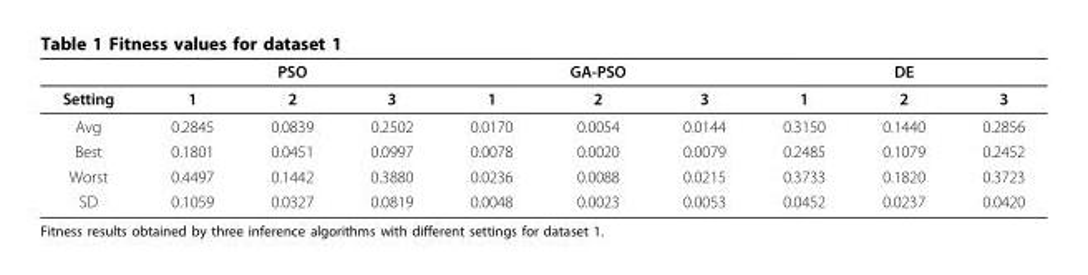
<table><thead><tr><td></td><td></td><td>PSO</td><td></td><td></td><td>GA-PSO</td><td></td><td></td><td>DE</td><td></td></tr></thead><tbody><tr><td>Setting</td><td>1</td><td>2</td><td>3</td><td>1</td><td>2</td><td>3</td><td>1</td><td>2</td><td>3</td></tr><tr><td>Avg</td><td>0.2845</td><td>0.0839</td><td>0.2502</td><td>0.0170</td><td>0.0054</td><td>0.0144</td><td>0.3150</td><td>0.1440</td><td>0.2856</td></tr><tr><td>Best</td><td>0.1801</td><td>0.0451</td><td>0.0997</td><td>0.0078</td><td>0.0020</td><td>0.0079</td><td>0.2485</td><td>0.1079</td><td>0.2452</td></tr><tr><td>Worst</td><td>0.4497</td><td>0.1442</td><td>0.3880</td><td>0.0236</td><td>0.0088</td><td>0.0215</td><td>0.3733</td><td>0.1820</td><td>0.3723</td></tr><tr><td>SD</td><td>0.1059</td><td>0.0327</td><td>0.0819</td><td>0.0048</td><td>0.0023</td><td>0.0053</td><td>0.0452</td><td>0.0237</td><td>0.0420</td></tr></tbody></table>